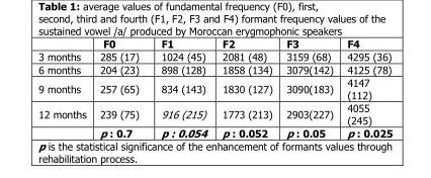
<table><thead><tr><td></td><td>F0</td><td>F1</td><td>F2</td><td>F3</td><td>F4</td></tr></thead><tbody><tr><td>3 months</td><td>285 (17)</td><td>1024 (45)</td><td>2081 (48)</td><td>3159 (68)</td><td>4295 (36)</td></tr><tr><td>6 months</td><td>204 (23)</td><td>898 (128)</td><td>1858 (134)</td><td>3079(142)</td><td>4125 (78)</td></tr><tr><td>9 months</td><td>257 (65)</td><td>834 (143)</td><td>1830 (127)</td><td>3090(183)</td><td>4147 (112)</td></tr><tr><td rowspan="2">12 months</td><td>239 (75)</td><td>916 (215)</td><td>1773 (213)</td><td>2903(227)</td><td>4055 (245)</td></tr><tr><td>p : 0.7</td><td>p : 0.054</td><td>p : 0.052</td><td>p : 0.05</td><td>p : 0.025</td></tr></tbody></table>